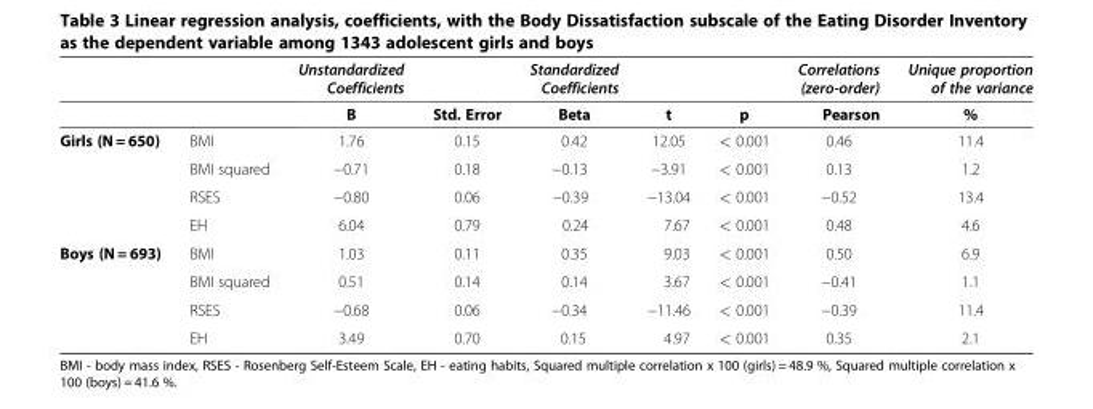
<table><thead><tr><td></td><td></td><td>Unstandardized Coefficients</td><td></td><td>Standardized Coefficients</td><td></td><td></td><td>Correlations (zero-order)</td><td>Unique proportion of the variance</td></tr></thead><tbody><tr><td></td><td></td><td>B</td><td>Std. Error</td><td>Beta</td><td>t</td><td>p</td><td>Pearson</td><td>%</td></tr><tr><td rowspan="4">Girls (N = 650)</td><td>BMI</td><td>1.76</td><td>0.15</td><td>0.42</td><td>12.05</td><td>&lt; 0.001</td><td>0.46</td><td>11.4</td></tr><tr><td>BMI squared</td><td>−0.71</td><td>0.18</td><td>−0.13</td><td>−3.91</td><td>&lt; 0.001</td><td>0.13</td><td>1.2</td></tr><tr><td>RSES</td><td>−0.80</td><td>0.06</td><td>−0.39</td><td>−13.04</td><td>&lt; 0.001</td><td>−0.52</td><td>13.4</td></tr><tr><td>EH</td><td>6.04</td><td>0.79</td><td>0.24</td><td>7.67</td><td>&lt; 0.001</td><td>0.48</td><td>4.6</td></tr><tr><td rowspan="4">Boys (N = 693)</td><td>BMI</td><td>1.03</td><td>0.11</td><td>0.35</td><td>9.03</td><td>&lt; 0.001</td><td>0.50</td><td>6.9</td></tr><tr><td>BMI squared</td><td>0.51</td><td>0.14</td><td>0.14</td><td>3.67</td><td>&lt; 0.001</td><td>−0.41</td><td>1.1</td></tr><tr><td>RSES</td><td>−0.68</td><td>0.06</td><td>−0.34</td><td>−11.46</td><td>&lt; 0.001</td><td>−0.39</td><td>11.4</td></tr><tr><td>EH</td><td>3.49</td><td>0.70</td><td>0.15</td><td>4.97</td><td>&lt; 0.001</td><td>0.35</td><td>2.1</td></tr></tbody></table>